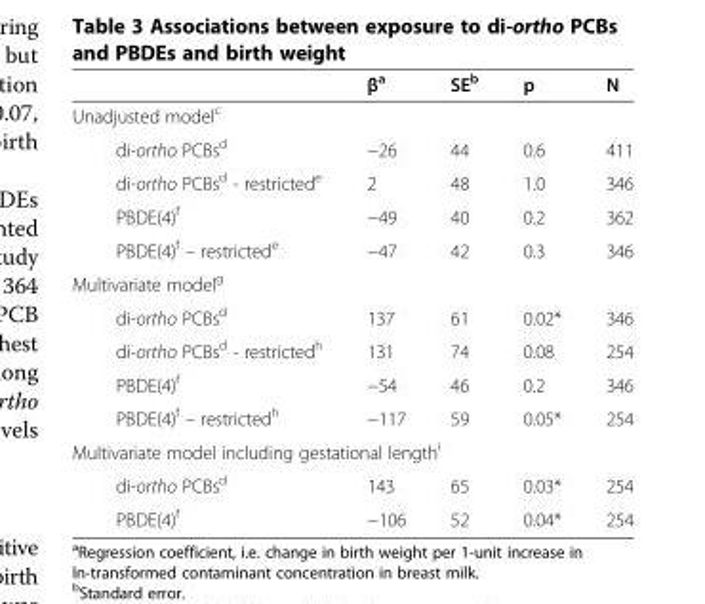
<table><thead><tr><td></td><td>β<sup>a</sup></td><td>SE<sup>b</sup></td><td>p</td><td>N</td></tr></thead><tbody><tr><td colspan="5">Unadjusted model<sup>c</sup></td></tr><tr><td>di-ortho PCBs<sup>d</sup></td><td>−26</td><td>44</td><td>0.6</td><td>411</td></tr><tr><td>di-ortho PCBs<sup>d</sup> - restricted<sup>e</sup></td><td>2</td><td>48</td><td>1.0</td><td>346</td></tr><tr><td>PBDE(4)<sup>f</sup></td><td>−49</td><td>40</td><td>0.2</td><td>362</td></tr><tr><td>PBDE(4)<sup>f</sup> – restricted<sup>e</sup></td><td>−47</td><td>42</td><td>0.3</td><td>346</td></tr><tr><td colspan="5">Multivariate model<sup>g</sup></td></tr><tr><td>di-ortho PCBs<sup>d</sup></td><td>137</td><td>61</td><td>0.02*</td><td>346</td></tr><tr><td>di-ortho PCBs<sup>d</sup> - restricted<sup>h</sup></td><td>131</td><td>74</td><td>0.08</td><td>254</td></tr><tr><td>PBDE(4)<sup>f</sup></td><td>−54</td><td>46</td><td>0.2</td><td>346</td></tr><tr><td>PBDE(4)<sup>f</sup> – restricted<sup>h</sup></td><td>−117</td><td>59</td><td>0.05*</td><td>254</td></tr><tr><td colspan="5">Multivariate model including gestational length<sup>i</sup></td></tr><tr><td>di-ortho PCBs<sup>d</sup></td><td>143</td><td>65</td><td>0.03*</td><td>254</td></tr><tr><td>PBDE(4)<sup>f</sup></td><td>−106</td><td>52</td><td>0.04*</td><td>254</td></tr></tbody></table>